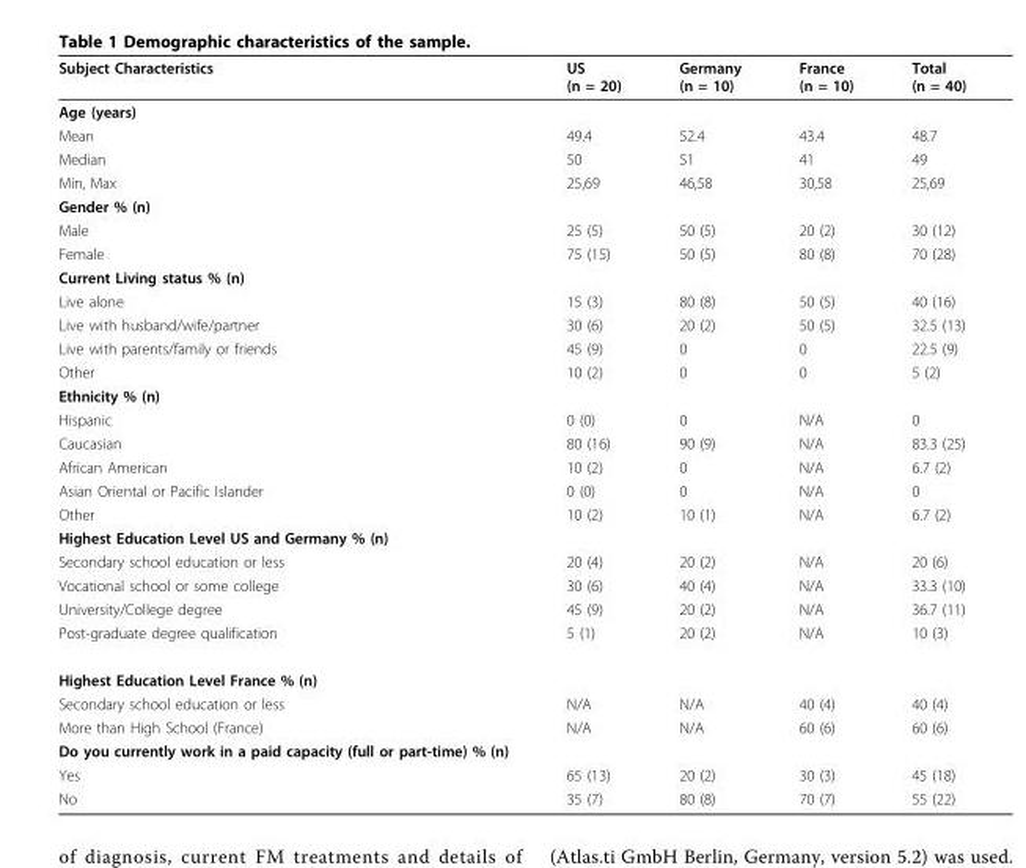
<table><thead><tr><td>Subject Characteristics</td><td>US (n = 20)</td><td>Germany (n = 10)</td><td>France (n = 10)</td><td>Total (n = 40)</td></tr></thead><tbody><tr><td colspan="5">Age (years)</td></tr><tr><td>Mean</td><td>49.4</td><td>52.4</td><td>43.4</td><td>48.7</td></tr><tr><td>Median</td><td>50</td><td>51</td><td>41</td><td>49</td></tr><tr><td>Min, Max</td><td>25,69</td><td>46,58</td><td>30,58</td><td>25,69</td></tr><tr><td colspan="5">Gender % (n)</td></tr><tr><td>Male</td><td>25 (5)</td><td>50 (5)</td><td>20 (2)</td><td>30 (12)</td></tr><tr><td>Female</td><td>75 (15)</td><td>50 (5)</td><td>80 (8)</td><td>70 (28)</td></tr><tr><td colspan="5">Current Living status % (n)</td></tr><tr><td>Live alone</td><td>15 (3)</td><td>80 (8)</td><td>50 (5)</td><td>40 (16)</td></tr><tr><td>Live with husband/wife/partner</td><td>30 (6)</td><td>20 (2)</td><td>50 (5)</td><td>32.5 (13)</td></tr><tr><td>Live with parents/family or friends</td><td>45 (9)</td><td>0</td><td>0</td><td>22.5 (9)</td></tr><tr><td>Other</td><td>10 (2)</td><td>0</td><td>0</td><td>5 (2)</td></tr><tr><td colspan="5">Ethnicity % (n)</td></tr><tr><td>Hispanic</td><td>0 (0)</td><td>0</td><td>N/A</td><td>0</td></tr><tr><td>Caucasian</td><td>80 (16)</td><td>90 (9)</td><td>N/A</td><td>83.3 (25)</td></tr><tr><td>African American</td><td>10 (2)</td><td>0</td><td>N/A</td><td>6.7 (2)</td></tr><tr><td>Asian Oriental or Pacific Islander</td><td>0 (0)</td><td>0</td><td>N/A</td><td>0</td></tr><tr><td>Other</td><td>10 (2)</td><td>10 (1)</td><td>N/A</td><td>6.7 (2)</td></tr><tr><td colspan="5">Highest Education Level US and Germany % (n)</td></tr><tr><td>Secondary school education or less</td><td>20 (4)</td><td>20 (2)</td><td>N/A</td><td>20 (6)</td></tr><tr><td>Vocational school or some college</td><td>30 (6)</td><td>40 (4)</td><td>N/A</td><td>33.3 (10)</td></tr><tr><td>University/College degree</td><td>45 (9)</td><td>20 (2)</td><td>N/A</td><td>36.7 (11)</td></tr><tr><td>Post-graduate degree qualification</td><td>5 (1)</td><td>20 (2)</td><td>N/A</td><td>10 (3)</td></tr><tr><td colspan="5">Highest Education Level France % (n)</td></tr><tr><td>Secondary school education or less</td><td>N/A</td><td>N/A</td><td>40 (4)</td><td>40 (4)</td></tr><tr><td>More than High School (France)</td><td>N/A</td><td>N/A</td><td>60 (6)</td><td>60 (6)</td></tr><tr><td colspan="5">Do you currently work in a paid capacity (full or part-time) % (n)</td></tr><tr><td>Yes</td><td>65 (13)</td><td>20 (2)</td><td>30 (3)</td><td>45 (18)</td></tr><tr><td>No</td><td>35 (7)</td><td>80 (8)</td><td>70 (7)</td><td>55 (22)</td></tr></tbody></table>